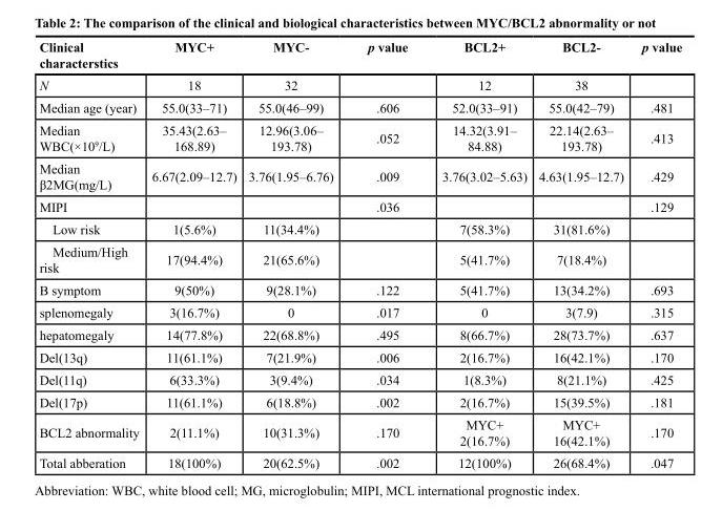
<table><thead><tr><td>Clinical characterstics</td><td>MYC+</td><td>MYC-</td><td>p value</td><td>BCL2+</td><td>BCL2-</td><td>p value</td></tr></thead><tbody><tr><td>N</td><td>18</td><td>32</td><td></td><td>12</td><td>38</td><td></td></tr><tr><td>Median age (year)</td><td>55.0(33–71)</td><td>55.0(46–99)</td><td>.606</td><td>52.0(33–91)</td><td>55.0(42–79)</td><td>.481</td></tr><tr><td>Median WBC(×10<sup>9</sup>/L)</td><td>35.43(2.63– 168.89)</td><td>12.96(3.06– 193.78)</td><td>.052</td><td>14.32(3.91– 84.88)</td><td>22.14(2.63– 193.78)</td><td>.413</td></tr><tr><td>Median β2MG(mg/L)</td><td>6.67(2.09–12.7)</td><td>3.76(1.95–6.76)</td><td>.009</td><td>3.76(3.02–5.63)</td><td>4.63(1.95–12.7)</td><td>.429</td></tr><tr><td>MIPI</td><td></td><td></td><td>.036</td><td></td><td></td><td>.129</td></tr><tr><td>Low risk</td><td>1(5.6%)</td><td>11(34.4%)</td><td></td><td>7(58.3%)</td><td>31(81.6%)</td><td></td></tr><tr><td>Medium/High risk</td><td>17(94.4%)</td><td>21(65.6%)</td><td></td><td>5(41.7%)</td><td>7(18.4%)</td><td></td></tr><tr><td>B symptom</td><td>9(50%)</td><td>9(28.1%)</td><td>.122</td><td>5(41.7%)</td><td>13(34.2%)</td><td>.693</td></tr><tr><td>splenomegaly</td><td>3(16.7%)</td><td>0</td><td>.017</td><td>0</td><td>3(7.9)</td><td>.315</td></tr><tr><td>hepatomegaly</td><td>14(77.8%)</td><td>22(68.8%)</td><td>.495</td><td>8(66.7%)</td><td>28(73.7%)</td><td>.637</td></tr><tr><td>Del(13q)</td><td>11(61.1%)</td><td>7(21.9%)</td><td>.006</td><td>2(16.7%)</td><td>16(42.1%)</td><td>.170</td></tr><tr><td>Del(11q)</td><td>6(33.3%)</td><td>3(9.4%)</td><td>.034</td><td>1(8.3%)</td><td>8(21.1%)</td><td>.425</td></tr><tr><td>Del(17p)</td><td>11(61.1%)</td><td>6(18.8%)</td><td>.002</td><td>2(16.7%)</td><td>15(39.5%)</td><td>.181</td></tr><tr><td>BCL2 abnormality</td><td>2(11.1%)</td><td>10(31.3%)</td><td>.170</td><td>MYC+ 2(16.7%)</td><td>MYC+ 16(42.1%)</td><td>.170</td></tr><tr><td>Total abberation</td><td>18(100%)</td><td>20(62.5%)</td><td>.002</td><td>12(100%)</td><td>26(68.4%)</td><td>.047</td></tr></tbody></table>